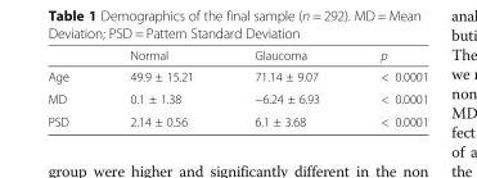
<table><thead><tr><td></td><td>Normal</td><td>Glaucoma</td><td>p</td></tr></thead><tbody><tr><td>Age</td><td>49.9 ± 15.21</td><td>71.14 ± 9.07</td><td>&lt; 0.0001</td></tr><tr><td>MD</td><td>0.1 ± 1.38</td><td>−6.24 ± 6.93</td><td>&lt; 0.0001</td></tr><tr><td>PSD</td><td>2.14 ± 0.56</td><td>6.1 ± 3.68</td><td>&lt; 0.0001</td></tr></tbody></table>